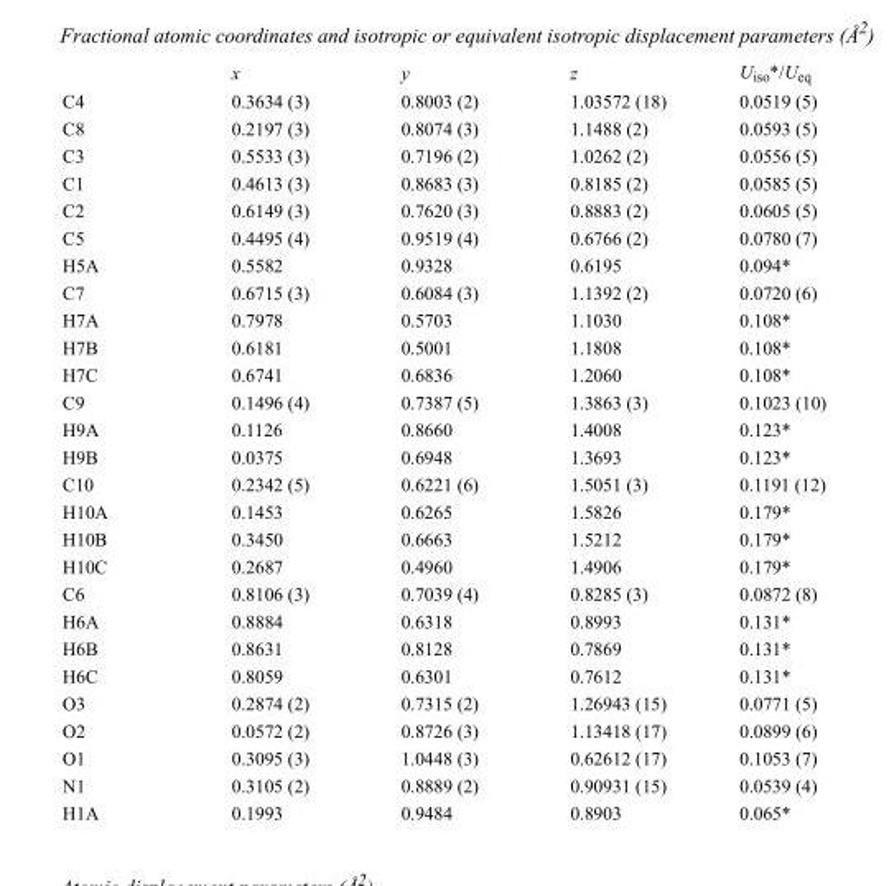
<table><thead><tr><td></td><td>x</td><td>y</td><td>z</td><td>U<sub>iso</sub>*/U<sub>eq</sub></td></tr></thead><tbody><tr><td>C4</td><td>0.3634 (3)</td><td>0.8003 (2)</td><td>1.03572 (18)</td><td>0.0519 (5)</td></tr><tr><td>C8</td><td>0.2197 (3)</td><td>0.8074 (3)</td><td>1.1488 (2)</td><td>0.0593 (5)</td></tr><tr><td>C3</td><td>0.5533 (3)</td><td>0.7196 (2)</td><td>1.0262 (2)</td><td>0.0556 (5)</td></tr><tr><td>C1</td><td>0.4613 (3)</td><td>0.8683 (3)</td><td>0.8185 (2)</td><td>0.0585 (5)</td></tr><tr><td>C2</td><td>0.6149 (3)</td><td>0.7620 (3)</td><td>0.8883 (2)</td><td>0.0605 (5)</td></tr><tr><td>C5</td><td>0.4495 (4)</td><td>0.9519 (4)</td><td>0.6766 (2)</td><td>0.0780 (7)</td></tr><tr><td>H5A</td><td>0.5582</td><td>0.9328</td><td>0.6195</td><td>0.094*</td></tr><tr><td>C7</td><td>0.6715 (3)</td><td>0.6084 (3)</td><td>1.1392 (2)</td><td>0.0720 (6)</td></tr><tr><td>H7A</td><td>0.7978</td><td>0.5703</td><td>1.1030</td><td>0.108*</td></tr><tr><td>H7B</td><td>0.6181</td><td>0.5001</td><td>1.1808</td><td>0.108*</td></tr><tr><td>H7C</td><td>0.6741</td><td>0.6836</td><td>1.2060</td><td>0.108*</td></tr><tr><td>C9</td><td>0.1496 (4)</td><td>0.7387 (5)</td><td>1.3863 (3)</td><td>0.1023 (10)</td></tr><tr><td>H9A</td><td>0.1126</td><td>0.8660</td><td>1.4008</td><td>0.123*</td></tr><tr><td>H9B</td><td>0.0375</td><td>0.6948</td><td>1.3693</td><td>0.123*</td></tr><tr><td>C10</td><td>0.2342 (5)</td><td>0.6221 (6)</td><td>1.5051 (3)</td><td>0.1191 (12)</td></tr><tr><td>H10A</td><td>0.1453</td><td>0.6265</td><td>1.5826</td><td>0.179*</td></tr><tr><td>H10B</td><td>0.3450</td><td>0.6663</td><td>1.5212</td><td>0.179*</td></tr><tr><td>H10C</td><td>0.2687</td><td>0.4960</td><td>1.4906</td><td>0.179*</td></tr><tr><td>C6</td><td>0.8106 (3)</td><td>0.7039 (4)</td><td>0.8285 (3)</td><td>0.0872 (8)</td></tr><tr><td>H6A</td><td>0.8884</td><td>0.6318</td><td>0.8993</td><td>0.131*</td></tr><tr><td>H6B</td><td>0.8631</td><td>0.8128</td><td>0.7869</td><td>0.131*</td></tr><tr><td>H6C</td><td>0.8059</td><td>0.6301</td><td>0.7612</td><td>0.131*</td></tr><tr><td>O3</td><td>0.2874 (2)</td><td>0.7315 (2)</td><td>1.26943 (15)</td><td>0.0771 (5)</td></tr><tr><td>O2</td><td>0.0572 (2)</td><td>0.8726 (3)</td><td>1.13418 (17)</td><td>0.0899 (6)</td></tr><tr><td>O1</td><td>0.3095 (3)</td><td>1.0448 (3)</td><td>0.62612 (17)</td><td>0.1053 (7)</td></tr><tr><td>N1</td><td>0.3105 (2)</td><td>0.8889 (2)</td><td>0.90931 (15)</td><td>0.0539 (4)</td></tr><tr><td>H1A</td><td>0.1993</td><td>0.9484</td><td>0.8903</td><td>0.065*</td></tr></tbody></table>